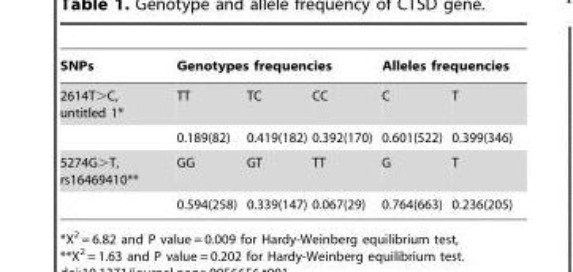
<table><thead><tr><td rowspan="2">SNPs 2614T&gt;C, untitled 1*</td><td colspan="3">Genotypes frequencies</td><td colspan="2">Alleles frequencies</td></tr><tr><td>TT</td><td>TC</td><td>CC</td><td>C</td><td>T</td></tr></thead><tbody><tr><td></td><td>0.189(82)</td><td>0.419(182)</td><td>0.392(170)</td><td>0.601(522)</td><td>0.399(346)</td></tr><tr><td rowspan="2">5274G&gt;T, rs16469410**</td><td>GG</td><td>GT</td><td>TT</td><td>G</td><td>T</td></tr><tr><td>0.594(258)</td><td>0.339(147)</td><td>0.067(29)</td><td>0.764(663)</td><td>0.236(205)</td></tr></tbody></table>